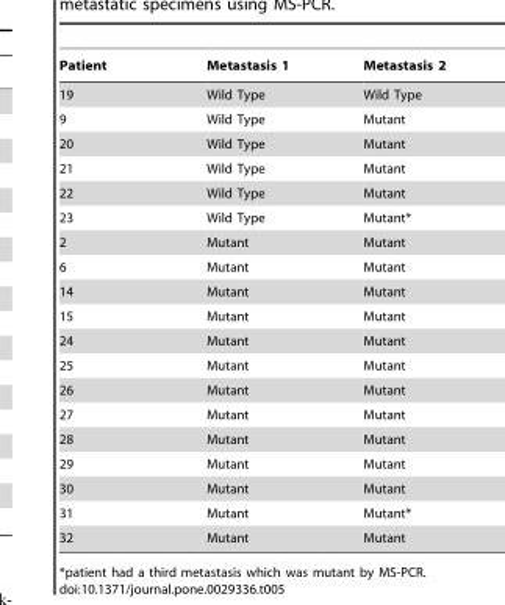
<table><thead><tr><td>Patient</td><td>Metastasis 1</td><td>Metastasis 2</td></tr></thead><tbody><tr><td>19</td><td>Wild Type</td><td>Wild Type</td></tr><tr><td>9</td><td>Wild Type</td><td>Mutant</td></tr><tr><td>20</td><td>Wild Type</td><td>Mutant</td></tr><tr><td>21</td><td>Wild Type</td><td>Mutant</td></tr><tr><td>22</td><td>Wild Type</td><td>Mutant</td></tr><tr><td>23</td><td>Wild Type</td><td>Mutant*</td></tr><tr><td>2</td><td>Mutant</td><td>Mutant</td></tr><tr><td>6</td><td>Mutant</td><td>Mutant</td></tr><tr><td>14</td><td>Mutant</td><td>Mutant</td></tr><tr><td>15</td><td>Mutant</td><td>Mutant</td></tr><tr><td>24</td><td>Mutant</td><td>Mutant</td></tr><tr><td>25</td><td>Mutant</td><td>Mutant</td></tr><tr><td>26</td><td>Mutant</td><td>Mutant</td></tr><tr><td>27</td><td>Mutant</td><td>Mutant</td></tr><tr><td>28</td><td>Mutant</td><td>Mutant</td></tr><tr><td>29</td><td>Mutant</td><td>Mutant</td></tr><tr><td>30</td><td>Mutant</td><td>Mutant</td></tr><tr><td>31</td><td>Mutant</td><td>Mutant*</td></tr><tr><td>32</td><td>Mutant</td><td>Mutant</td></tr></tbody></table>